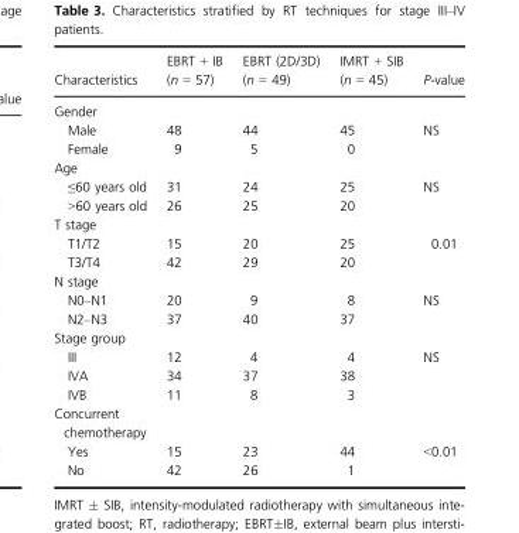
<table><thead><tr><td>Characteristics</td><td>EBRT + IB (n = 57)</td><td>EBRT (2D/3D) (n = 49)</td><td>IMRT + SIB (n = 45)</td><td>P-value</td></tr></thead><tbody><tr><td colspan="5">Gender</td></tr><tr><td>Male</td><td>48</td><td>44</td><td>45</td><td>NS</td></tr><tr><td>Female</td><td>9</td><td>5</td><td>0</td><td></td></tr><tr><td colspan="5">Age</td></tr><tr><td>≤60 years old</td><td>31</td><td>24</td><td>25</td><td>NS</td></tr><tr><td>&gt;60 years old</td><td>26</td><td>25</td><td>20</td><td></td></tr><tr><td colspan="5">T stage</td></tr><tr><td>T1/T2</td><td>15</td><td>20</td><td>25</td><td>0.01</td></tr><tr><td>T3/T4</td><td>42</td><td>29</td><td>20</td><td></td></tr><tr><td colspan="5">N stage</td></tr><tr><td>N0–N1</td><td>20</td><td>9</td><td>8</td><td>NS</td></tr><tr><td>N2–N3</td><td>37</td><td>40</td><td>37</td><td></td></tr><tr><td colspan="5">Stage group</td></tr><tr><td>III</td><td>12</td><td>4</td><td>4</td><td>NS</td></tr><tr><td>IVA</td><td>34</td><td>37</td><td>38</td><td></td></tr><tr><td>IVB</td><td>11</td><td>8</td><td>3</td><td></td></tr><tr><td colspan="5">Concurrent chemotherapy</td></tr><tr><td>Yes</td><td>15</td><td>23</td><td>44</td><td>&lt;0.01</td></tr><tr><td>No</td><td>42</td><td>26</td><td>1</td><td></td></tr></tbody></table>